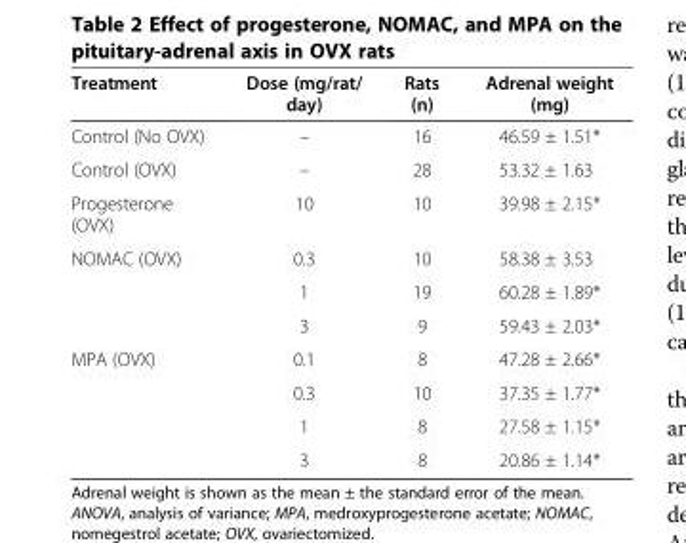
<table><thead><tr><td>Treatment</td><td>Dose (mg/rat/ day)</td><td>Rats (n)</td><td>Adrenal weight (mg)</td></tr></thead><tbody><tr><td>Control (No OVX)</td><td>–</td><td>16</td><td>46.59 ± 1.51*</td></tr><tr><td>Control (OVX)</td><td>–</td><td>28</td><td>53.32 ± 1.63</td></tr><tr><td>Progesterone (OVX)</td><td>10</td><td>10</td><td>39.98 ± 2.15*</td></tr><tr><td rowspan="3">NOMAC (OVX)</td><td>0.3</td><td>10</td><td>58.38 ± 3.53</td></tr><tr><td>1</td><td>19</td><td>60.28 ± 1.89*</td></tr><tr><td>3</td><td>9</td><td>59.43 ± 2.03*</td></tr><tr><td rowspan="4">MPA (OVX)</td><td>0.1</td><td>8</td><td>47.28 ± 2.66*</td></tr><tr><td>0.3</td><td>10</td><td>37.35 ± 1.77*</td></tr><tr><td>1</td><td>8</td><td>27.58 ± 1.15*</td></tr><tr><td>3</td><td>8</td><td>20.86 ± 1.14*</td></tr></tbody></table>